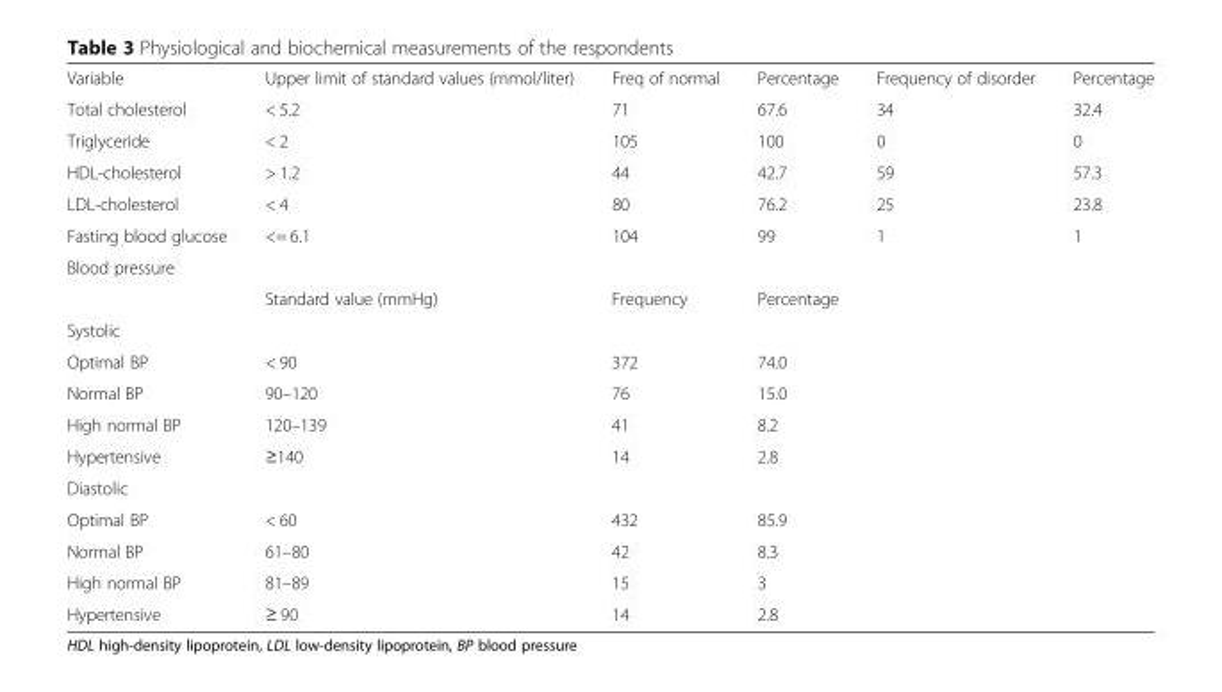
<table><tbody><tr><td>Variable</td><td>Upper limit of standard values (mmol/liter)</td><td>Freq of normal</td><td>Percentage</td><td>Frequency of disorder</td><td>Percentage</td></tr><tr><td>Total cholesterol</td><td>&lt; 5.2</td><td>71</td><td>67.6</td><td>34</td><td>32.4</td></tr><tr><td>Triglyceride</td><td>&lt; 2</td><td>105</td><td>100</td><td>0</td><td>0</td></tr><tr><td>HDL-cholesterol</td><td>&gt; 1.2</td><td>44</td><td>42.7</td><td>59</td><td>57.3</td></tr><tr><td>LDL-cholesterol</td><td>&lt; 4</td><td>80</td><td>76.2</td><td>25</td><td>23.8</td></tr><tr><td>Fasting blood glucose</td><td>&lt;= 6.1</td><td>104</td><td>99</td><td>1</td><td>1</td></tr><tr><td colspan="6">Blood pressure</td></tr><tr><td></td><td>Standard value (mmHg)</td><td>Frequency</td><td>Percentage</td><td></td><td></td></tr><tr><td colspan="6">Systolic</td></tr><tr><td>Optimal BP</td><td>&lt; 90</td><td>372</td><td>74.0</td><td></td><td></td></tr><tr><td>Normal BP</td><td>90–120</td><td>76</td><td>15.0</td><td></td><td></td></tr><tr><td>High normal BP</td><td>120–139</td><td>41</td><td>8.2</td><td></td><td></td></tr><tr><td>Hypertensive</td><td>≥140</td><td>14</td><td>2.8</td><td></td><td></td></tr><tr><td colspan="6">Diastolic</td></tr><tr><td>Optimal BP</td><td>&lt; 60</td><td>432</td><td>85.9</td><td></td><td></td></tr><tr><td>Normal BP</td><td>61–80</td><td>42</td><td>8.3</td><td></td><td></td></tr><tr><td>High normal BP</td><td>81–89</td><td>15</td><td>3</td><td></td><td></td></tr><tr><td>Hypertensive</td><td>≥ 90</td><td>14</td><td>2.8</td><td></td><td></td></tr></tbody></table>